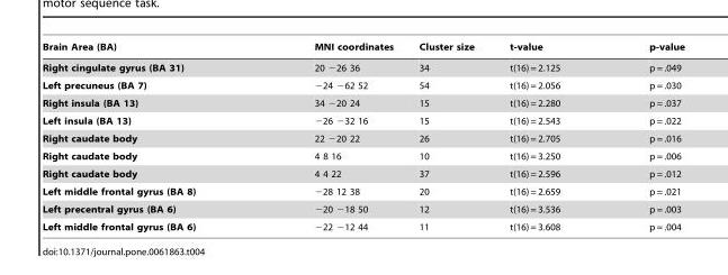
<table><thead><tr><td>Brain Area (BA)</td><td>MNI coordinates</td><td>Cluster size</td><td>t-value</td><td>p-value</td></tr></thead><tbody><tr><td>Right cingulate gyrus (BA 31)</td><td>20 −26 36</td><td>34</td><td>t(16) = 2.125</td><td>p = .049</td></tr><tr><td>Left precuneus (BA 7)</td><td>−24 −62 52</td><td>54</td><td>t(16) = 2.056</td><td>p = .030</td></tr><tr><td>Right insula (BA 13)</td><td>34 −20 24</td><td>15</td><td>t(16) = 2.280</td><td>p = .037</td></tr><tr><td>Left insula (BA 13)</td><td>−26 −32 16</td><td>15</td><td>t(16) = 2.543</td><td>p = .022</td></tr><tr><td>Right caudate body</td><td>22 −20 22</td><td>26</td><td>t(16) = 2.705</td><td>p = .016</td></tr><tr><td>Right caudate body</td><td>4 8 16</td><td>10</td><td>t(16) = 3.250</td><td>p = .006</td></tr><tr><td>Right caudate body</td><td>4 4 22</td><td>37</td><td>t(16) = 2.596</td><td>p = .012</td></tr><tr><td>Left middle frontal gyrus (BA 8)</td><td>−28 12 38</td><td>20</td><td>t(16) = 2.659</td><td>p = .021</td></tr><tr><td>Left precentral gyrus (BA 6)</td><td>−20 −18 50</td><td>12</td><td>t(16) = 3.536</td><td>p = .003</td></tr><tr><td>Left middle frontal gyrus (BA 6)</td><td>−22 −12 44</td><td>11</td><td>t(16) = 3.608</td><td>p = .004</td></tr></tbody></table>